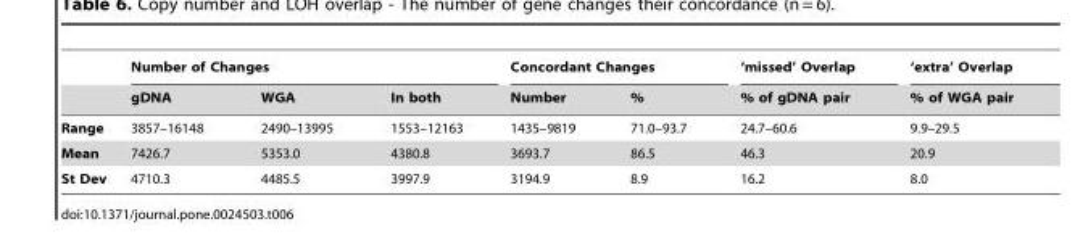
<table><thead><tr><td rowspan="2"></td><td colspan="3">Number of Changes</td><td colspan="2">Concordant Changes</td><td rowspan="2">‘missed’ Overlap % of gDNA pair</td><td rowspan="2">‘extra’ Overlap % of WGA pair</td></tr><tr><td>gDNA</td><td>WGA</td><td>In both</td><td>Number</td><td>%</td></tr></thead><tbody><tr><td>Range</td><td>3857–16148</td><td>2490–13995</td><td>1553–12163</td><td>1435–9819</td><td>71.0–93.7</td><td>24.7–60.6</td><td>9.9–29.5</td></tr><tr><td>Mean</td><td>7426.7</td><td>5353.0</td><td>4380.8</td><td>3693.7</td><td>86.5</td><td>46.3</td><td>20.9</td></tr><tr><td>St Dev</td><td>4710.3</td><td>4485.5</td><td>3997.9</td><td>3194.9</td><td>8.9</td><td>16.2</td><td>8.0</td></tr></tbody></table>